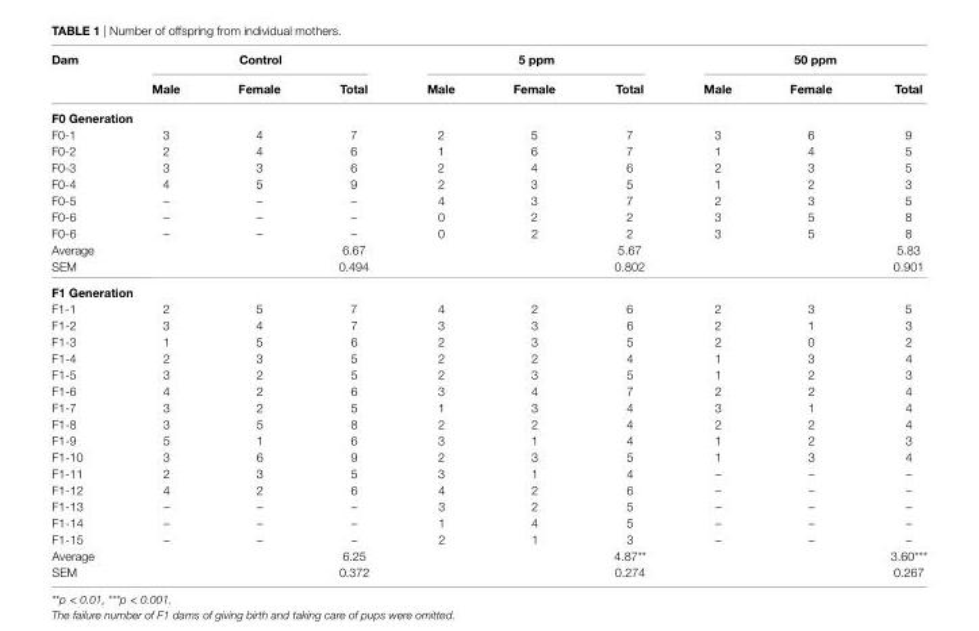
<table><thead><tr><td rowspan="2">Dam</td><td colspan="3">control</td><td colspan="3">5 ppm</td><td colspan="3">50 ppm</td></tr><tr><td>Male</td><td>Female</td><td>Total</td><td>Male</td><td>Female</td><td>Total</td><td>Male</td><td>Female</td><td>Total</td></tr></thead><tbody><tr><td colspan="10">F0 generation</td></tr><tr><td>F0-1</td><td>3</td><td>4</td><td>7</td><td>2</td><td>5</td><td>7</td><td>3</td><td>6</td><td>9</td></tr><tr><td>F0-2</td><td>2</td><td>4</td><td>6</td><td>1</td><td>6</td><td>7</td><td>1</td><td>4</td><td>5</td></tr><tr><td>F0-3</td><td>3</td><td>3</td><td>6</td><td>2</td><td>4</td><td>6</td><td>2</td><td>3</td><td>5</td></tr><tr><td>F0-4</td><td>4</td><td>5</td><td>9</td><td>2</td><td>3</td><td>5</td><td>1</td><td>2</td><td>3</td></tr><tr><td>F0-5</td><td>–</td><td>–</td><td>–</td><td>4</td><td>3</td><td>7</td><td>2</td><td>3</td><td>5</td></tr><tr><td>F0-6</td><td>–</td><td>–</td><td>–</td><td>0</td><td>2</td><td>2</td><td>3</td><td>5</td><td>8</td></tr><tr><td>F0-6</td><td>–</td><td>–</td><td>–</td><td>0</td><td>2</td><td>2</td><td>3</td><td>5</td><td>8</td></tr><tr><td>Average</td><td></td><td></td><td>6.67</td><td></td><td></td><td>5.67</td><td></td><td></td><td>5.83</td></tr><tr><td>SEM</td><td></td><td></td><td>0.494</td><td></td><td></td><td>0.802</td><td></td><td></td><td>0.901</td></tr><tr><td colspan="10">F1 generation</td></tr><tr><td>F1-1</td><td>2</td><td>5</td><td>7</td><td>4</td><td>2</td><td>6</td><td>2</td><td>3</td><td>5</td></tr><tr><td>F1-2</td><td>3</td><td>4</td><td>7</td><td>3</td><td>3</td><td>6</td><td>2</td><td>1</td><td>3</td></tr><tr><td>F1-3</td><td>1</td><td>5</td><td>6</td><td>2</td><td>3</td><td>5</td><td>2</td><td>0</td><td>2</td></tr><tr><td>F1-4</td><td>2</td><td>3</td><td>5</td><td>2</td><td>2</td><td>4</td><td>1</td><td>3</td><td>4</td></tr><tr><td>F1-5</td><td>3</td><td>2</td><td>5</td><td>2</td><td>3</td><td>5</td><td>1</td><td>2</td><td>3</td></tr><tr><td>F1-6</td><td>4</td><td>2</td><td>6</td><td>3</td><td>4</td><td>7</td><td>2</td><td>2</td><td>4</td></tr><tr><td>F1-7</td><td>3</td><td>2</td><td>5</td><td>1</td><td>3</td><td>4</td><td>3</td><td>1</td><td>4</td></tr><tr><td>F1-8</td><td>3</td><td>5</td><td>8</td><td>2</td><td>2</td><td>4</td><td>2</td><td>2</td><td>4</td></tr><tr><td>F1-9</td><td>5</td><td>1</td><td>6</td><td>3</td><td>1</td><td>4</td><td>1</td><td>2</td><td>3</td></tr><tr><td>F1-10</td><td>3</td><td>6</td><td>9</td><td>2</td><td>3</td><td>5</td><td>1</td><td>3</td><td>4</td></tr><tr><td>F1-11</td><td>2</td><td>3</td><td>5</td><td>3</td><td>1</td><td>4</td><td>–</td><td>–</td><td>–</td></tr><tr><td>F1-12</td><td>4</td><td>2</td><td>6</td><td>4</td><td>2</td><td>6</td><td>–</td><td>–</td><td>–</td></tr><tr><td>F1-13</td><td>–</td><td>–</td><td>–</td><td>3</td><td>2</td><td>5</td><td>–</td><td>–</td><td>–</td></tr><tr><td>F1-14</td><td>–</td><td>–</td><td>–</td><td>1</td><td>4</td><td>5</td><td>–</td><td>–</td><td>–</td></tr><tr><td>F1-15</td><td>–</td><td>–</td><td>–</td><td>2</td><td>1</td><td>3</td><td>–</td><td>–</td><td>–</td></tr><tr><td>Average</td><td></td><td></td><td>6.25</td><td></td><td></td><td>4.87**</td><td></td><td></td><td>3.60***</td></tr><tr><td>SEM</td><td></td><td></td><td>0.372</td><td></td><td></td><td>0.274</td><td></td><td></td><td>0.267</td></tr></tbody></table>